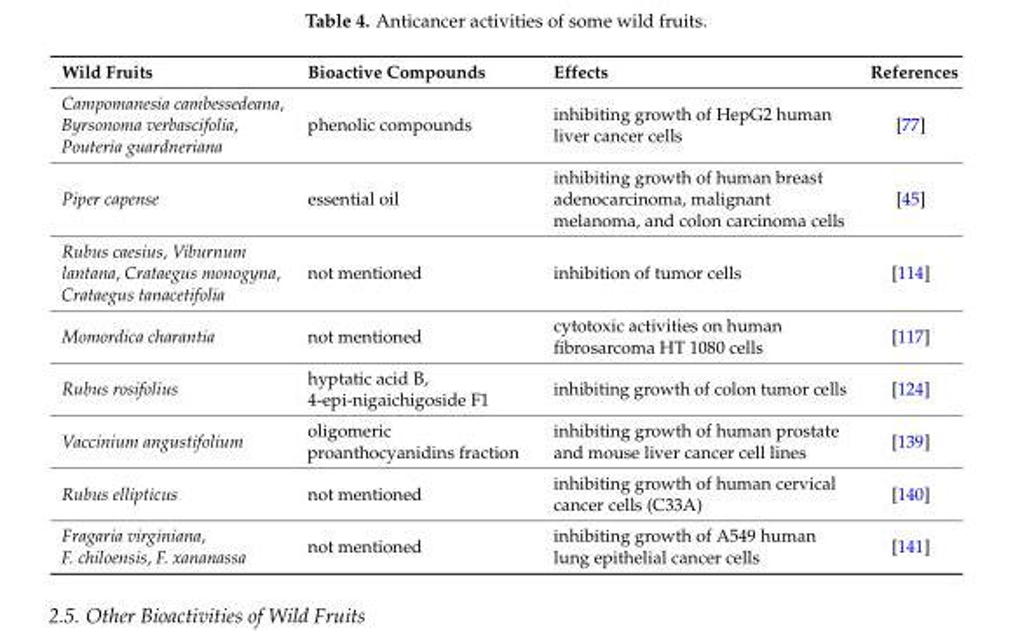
<table><thead><tr><td>Wild Fruits</td><td>Bioactive Compounds</td><td>Effects</td><td>References</td></tr></thead><tbody><tr><td>Campomanesia cambessedeana, Byrsonoma verbascifolia, Pouteria guardneriana</td><td>phenolic compounds</td><td>inhibiting growth of HepG2 human liver cancer cells</td><td>[77]</td></tr><tr><td>Piper capense</td><td>essential oil</td><td>inhibiting growth of human breast adenocarcinoma, malignant melanoma, and colon carcinoma cells</td><td>[45]</td></tr><tr><td>Rubus caesius, Viburnum lantana, Crataegus monogyna, Crataegus tanacetifolia</td><td>not mentioned</td><td>inhibition of tumor cells</td><td>[114]</td></tr><tr><td>Momordica charantia</td><td>not mentioned</td><td>cytotoxic activities on human fibrosarcoma HT 1080 cells</td><td>[117]</td></tr><tr><td>Rubus rosifolius</td><td>hyptatic acid B, 4-epi-nigaichigoside F1</td><td>inhibiting growth of colon tumor cells</td><td>[124]</td></tr><tr><td>Vaccinium angustifolium</td><td>oligomeric proanthocyanidins fraction</td><td>inhibiting growth of human prostate and mouse liver cancer cell lines</td><td>[139]</td></tr><tr><td>Rubus ellipticus</td><td>not mentioned</td><td>inhibiting growth of human cervical cancer cells (C33A)</td><td>[140]</td></tr><tr><td>Fragaria virginiana, F. chiloensis, F. xananassa</td><td>not mentioned</td><td>inhibiting growth of A549 human lung epithelial cancer cells</td><td>[141]</td></tr></tbody></table>